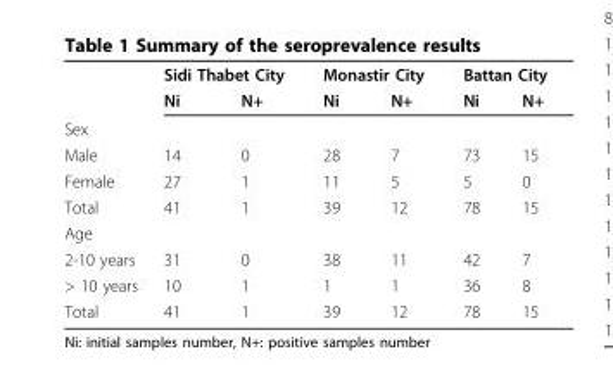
<table><thead><tr><td rowspan="2"></td><td colspan="2">Sidi Thabet City</td><td colspan="2">Monastir City</td><td colspan="2">Battan City</td></tr><tr><td>Ni</td><td>N+</td><td>Ni</td><td>N+</td><td>Ni</td><td>N+</td></tr></thead><tbody><tr><td colspan="7">Sex</td></tr><tr><td>Male</td><td>14</td><td>0</td><td>28</td><td>7</td><td>73</td><td>15</td></tr><tr><td>Female</td><td>27</td><td>1</td><td>11</td><td>5</td><td>5</td><td>0</td></tr><tr><td>Total</td><td>41</td><td>1</td><td>39</td><td>12</td><td>78</td><td>15</td></tr><tr><td colspan="7">Age</td></tr><tr><td>2-10 years</td><td>31</td><td>0</td><td>38</td><td>11</td><td>42</td><td>7</td></tr><tr><td>&gt; 10 years</td><td>10</td><td>1</td><td>1</td><td>1</td><td>36</td><td>8</td></tr><tr><td>Total</td><td>41</td><td>1</td><td>39</td><td>12</td><td>78</td><td>15</td></tr></tbody></table>